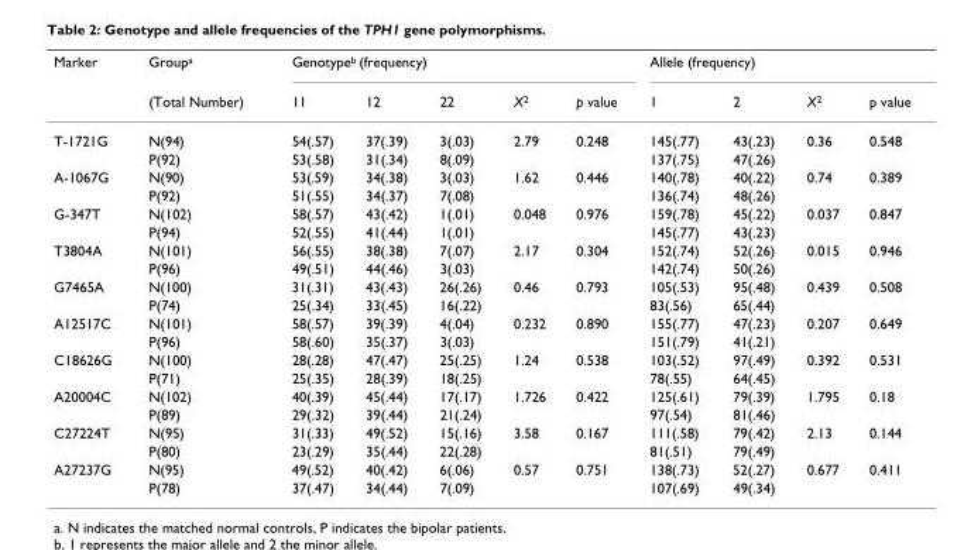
<table><thead><tr><td rowspan="2">Marker</td><td rowspan="2">Groupa (Total Number)</td><td colspan="5">Genotypeb (frequency)</td><td colspan="4">Allele (frequency)</td></tr><tr><td>11</td><td>12</td><td>22</td><td>X2</td><td>p value</td><td>1</td><td>2</td><td>X2</td><td>p value</td></tr></thead><tbody><tr><td rowspan="2">T-1721G</td><td>N(94)</td><td>54(.57)</td><td>37(.39)</td><td>3(.03)</td><td>2.79</td><td>0.248</td><td>145(.77)</td><td>43(.23)</td><td>0.36</td><td>0.548</td></tr><tr><td>P(92)</td><td>53(.58)</td><td>31(.34)</td><td>8(.09)</td><td></td><td></td><td>137(.75)</td><td>47(.26)</td><td></td><td></td></tr><tr><td rowspan="2">A-1067G</td><td>N(90)</td><td>53(.59)</td><td>34(.38)</td><td>3(.03)</td><td>1.62</td><td>0.446</td><td>140(.78)</td><td>40(.22)</td><td>0.74</td><td>0.389</td></tr><tr><td>P(92)</td><td>51(.55)</td><td>34(.37)</td><td>7(.08)</td><td></td><td></td><td>136(.74)</td><td>48(.26)</td><td></td><td></td></tr><tr><td rowspan="2">G-347T</td><td>N(102)</td><td>58(.57)</td><td>43(.42)</td><td>1(.01)</td><td>0.048</td><td>0.976</td><td>159(.78)</td><td>45(.22)</td><td>0.037</td><td>0.847</td></tr><tr><td>P(94)</td><td>52(.55)</td><td>41(.44)</td><td>1(.01)</td><td></td><td></td><td>145(.77)</td><td>43(.23)</td><td></td><td></td></tr><tr><td rowspan="2">T3804A</td><td>N(101)</td><td>56(.55)</td><td>38(.38)</td><td>7(.07)</td><td>2.17</td><td>0.304</td><td>152(.74)</td><td>52(.26)</td><td>0.015</td><td>0.946</td></tr><tr><td>P(96)</td><td>49(.51)</td><td>44(.46)</td><td>3(.03)</td><td></td><td></td><td>142(.74)</td><td>50(.26)</td><td></td><td></td></tr><tr><td rowspan="2">G7465A</td><td>N(100)</td><td>31(.31)</td><td>43(.43)</td><td>26(.26)</td><td>0.46</td><td>0.793</td><td>105(.53)</td><td>95(.48)</td><td>0.439</td><td>0.508</td></tr><tr><td>P(74)</td><td>25(.34)</td><td>33(.45)</td><td>16(.22)</td><td></td><td></td><td>83(.56)</td><td>65(.44)</td><td></td><td></td></tr><tr><td rowspan="2">A12517C</td><td>N(101)</td><td>58(.57)</td><td>39(.39)</td><td>4(.04)</td><td>0.232</td><td>0.890</td><td>155(.77)</td><td>47(.23)</td><td>0.207</td><td>0.649</td></tr><tr><td>P(96)</td><td>58(.60)</td><td>35(.37)</td><td>3(.03)</td><td></td><td></td><td>151(.79)</td><td>41(.21)</td><td></td><td></td></tr><tr><td rowspan="2">C18626G</td><td>N(100)</td><td>28(.28)</td><td>47(.47)</td><td>25(.25)</td><td>1.24</td><td>0.538</td><td>103(.52)</td><td>97(.49)</td><td>0.392</td><td>0.531</td></tr><tr><td>P(71)</td><td>25(.35)</td><td>28(.39)</td><td>18(.25)</td><td></td><td></td><td>78(.55)</td><td>64(.45)</td><td></td><td></td></tr><tr><td rowspan="2">A20004C</td><td>N(102)</td><td>40(.39)</td><td>45(.44)</td><td>17(.17)</td><td>1.726</td><td>0.422</td><td>125(.61)</td><td>79(.39)</td><td>1.795</td><td>0.18</td></tr><tr><td>P(89)</td><td>29(.32)</td><td>39(.44)</td><td>21(.24)</td><td></td><td></td><td>97(.54)</td><td>81(.46)</td><td></td><td></td></tr><tr><td rowspan="2">C27224T</td><td>N(95)</td><td>31(.33)</td><td>49(.52)</td><td>15(.16)</td><td>3.58</td><td>0.167</td><td>111(.58)</td><td>79(.42)</td><td>2.13</td><td>0.144</td></tr><tr><td>P(80)</td><td>23(.29)</td><td>35(.44)</td><td>22(.28)</td><td></td><td></td><td>81(.51)</td><td>79(.49)</td><td></td><td></td></tr><tr><td rowspan="2">A27237G</td><td>N(95)</td><td>49(.52)</td><td>40(.42)</td><td>6(.06)</td><td>0.57</td><td>0.751</td><td>138(.73)</td><td>52(.27)</td><td>0.677</td><td>0.411</td></tr><tr><td>P(78)</td><td>37(.47)</td><td>34(.44)</td><td>7(.09)</td><td></td><td></td><td>107(.69)</td><td>49(.34)</td><td></td><td></td></tr></tbody></table>